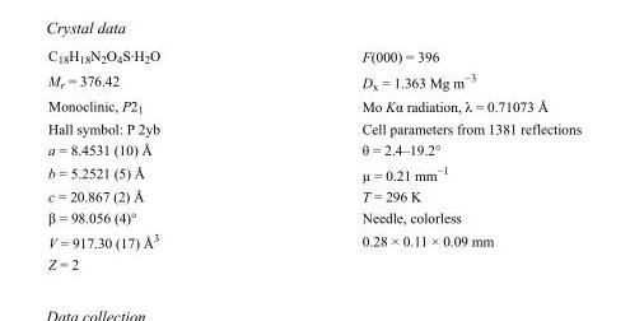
<table><tbody><tr><td>C<sub>18</sub>H<sub>18</sub>N<sub>2</sub>O<sub>4</sub>S·H<sub>2</sub>O</td><td>F(000) = 396</td></tr><tr><td>M<sub>r</sub> = 376.42</td><td>D<sub>x</sub> = 1.363 Mg m<sup>−3</sup></td></tr><tr><td>Monoclinic, P2<sub>1</sub></td><td>Mo Kα radiation, λ = 0.71073 Å</td></tr><tr><td>Hall symbol: P 2yb</td><td>Cell parameters from 1381 reflections</td></tr><tr><td>a = 8.4531 (10) Å</td><td>θ = 2.4–19.2°</td></tr><tr><td>b = 5.2521 (5) Å</td><td>µ = 0.21 mm<sup>−1</sup></td></tr><tr><td>c = 20.867 (2) Å</td><td>T = 296 K</td></tr><tr><td>β = 98.056 (4)°</td><td>Needle, colorless</td></tr><tr><td>V = 917.30 (17) Å<sup>3</sup></td><td>0.28 × 0.11 × 0.09 mm</td></tr><tr><td>Z = 2</td><td></td></tr></tbody></table>